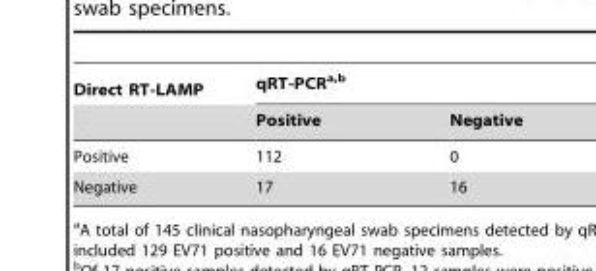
<table><thead><tr><td rowspan="2">Direct RT-LAMP</td><td colspan="2">qRT-PCRa,b</td></tr><tr><td>Positive</td><td>Negative</td></tr></thead><tbody><tr><td>Positive</td><td>112</td><td>0</td></tr><tr><td>Negative</td><td>17</td><td>16</td></tr></tbody></table>